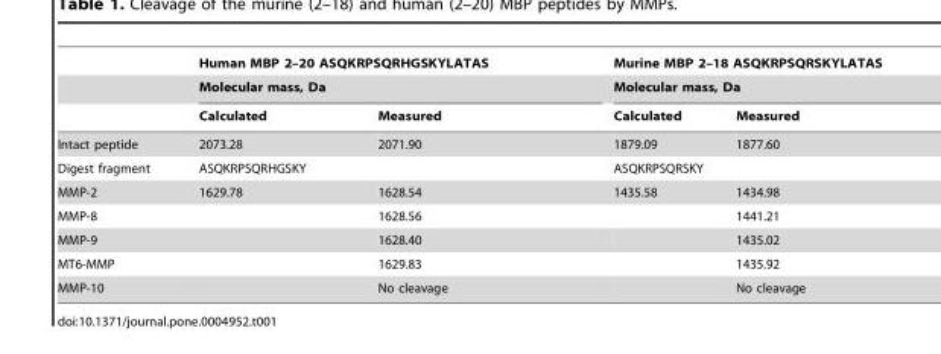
<table><thead><tr><td rowspan="3"></td><td rowspan="2" colspan="2">Human MBP 2–20 ASQKRPSQRHGSKYLATAS Molecular mass, Da</td><td rowspan="2" colspan="2">Murine MBP 2–18 ASQKRPSQRSKYLATAS Molecular mass, Da</td></tr><tr></tr><tr><td>Calculated</td><td>Measured</td><td>Calculated</td><td>Measured</td></tr></thead><tbody><tr><td>Intact peptide</td><td>2073.28</td><td>2071.90</td><td>1879.09</td><td>1877.60</td></tr><tr><td>Digest fragment</td><td colspan="2">ASQKRPSQRHGSKY</td><td colspan="2">ASQKRPSQRSKY</td></tr><tr><td>MMP-2</td><td>1629.78</td><td>1628.54</td><td>1435.58</td><td>1434.98</td></tr><tr><td>MMP-8</td><td></td><td>1628.56</td><td></td><td>1441.21</td></tr><tr><td>MMP-9</td><td></td><td>1628.40</td><td></td><td>1435.02</td></tr><tr><td>MT6-MMP</td><td></td><td>1629.83</td><td></td><td>1435.92</td></tr><tr><td>MMP-10</td><td></td><td>No cleavage</td><td></td><td>No cleavage</td></tr></tbody></table>